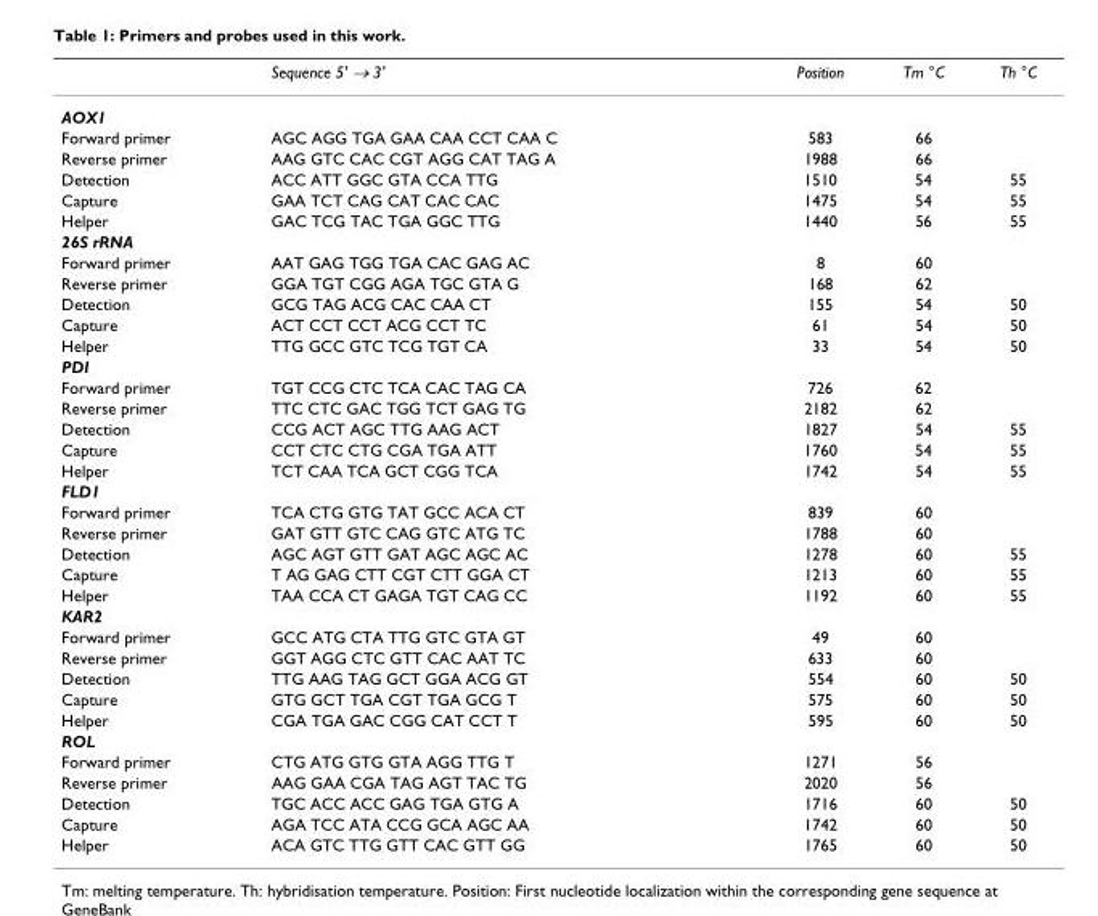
<table><thead><tr><td></td><td>Sequence 5&#x27; → 3&#x27;</td><td>Position</td><td>Tm °C</td><td>Th °C</td></tr></thead><tbody><tr><td colspan="5">AOX1</td></tr><tr><td>Forward primer</td><td>AGC AGG TGA GAA CAA CCT CAA C</td><td>583</td><td>66</td><td></td></tr><tr><td>Reverse primer</td><td>AAG GTC CAC CGT AGG CAT TAG A</td><td>1988</td><td>66</td><td></td></tr><tr><td>Detection</td><td>ACC ATT GGC GTA CCA TTG</td><td>1510</td><td>54</td><td>55</td></tr><tr><td>Capture</td><td>GAA TCT CAG CAT CAC CAC</td><td>1475</td><td>54</td><td>55</td></tr><tr><td>Helper</td><td>GAC TCG TAC TGA GGC TTG</td><td>1440</td><td>56</td><td>55</td></tr><tr><td colspan="5">26S rRNA</td></tr><tr><td>Forward primer</td><td>AAT GAG TGG TGA CAC GAG AC</td><td>8</td><td>60</td><td></td></tr><tr><td>Reverse primer</td><td>GGA TGT CGG AGA TGC GTA G</td><td>168</td><td>62</td><td></td></tr><tr><td>Detection</td><td>GCG TAG ACG CAC CAA CT</td><td>155</td><td>54</td><td>50</td></tr><tr><td>Capture</td><td>ACT CCT CCT ACG CCT TC</td><td>61</td><td>54</td><td>50</td></tr><tr><td>Helper</td><td>TTG GCC GTC TCG TGT CA</td><td>33</td><td>54</td><td>50</td></tr><tr><td colspan="5">PDI</td></tr><tr><td>Forward primer</td><td>TGT CCG CTC TCA CAC TAG CA</td><td>726</td><td>62</td><td></td></tr><tr><td>Reverse primer</td><td>TTC CTC GAC TGG TCT GAG TG</td><td>2182</td><td>62</td><td></td></tr><tr><td>Detection</td><td>CCG ACT AGC TTG AAG ACT</td><td>1827</td><td>54</td><td>55</td></tr><tr><td>Capture</td><td>CCT CTC CTG CGA TGA ATT</td><td>1760</td><td>54</td><td>55</td></tr><tr><td>Helper</td><td>TCT CAA TCA GCT CGG TCA</td><td>1742</td><td>54</td><td>55</td></tr><tr><td colspan="5">FLD1</td></tr><tr><td>Forward primer</td><td>TCA CTG GTG TAT GCC ACA CT</td><td>839</td><td>60</td><td></td></tr><tr><td>Reverse primer</td><td>GAT GTT GTC CAG GTC ATG TC</td><td>1788</td><td>60</td><td></td></tr><tr><td>Detection</td><td>AGC AGT GTT GAT AGC AGC AC</td><td>1278</td><td>60</td><td>55</td></tr><tr><td>Capture</td><td>T AG GAG CTT CGT CTT GGA CT</td><td>1213</td><td>60</td><td>55</td></tr><tr><td>Helper</td><td>TAA CCA CT GAGA TGT CAG CC</td><td>1192</td><td>60</td><td>55</td></tr><tr><td colspan="5">KAR2</td></tr><tr><td>Forward primer</td><td>GCC ATG CTA TTG GTC GTA GT</td><td>49</td><td>60</td><td></td></tr><tr><td>Reverse primer</td><td>GGT AGG CTC GTT CAC AAT TC</td><td>633</td><td>60</td><td></td></tr><tr><td>Detection</td><td>TTG AAG TAG GCT GGA ACG GT</td><td>554</td><td>60</td><td>50</td></tr><tr><td>Capture</td><td>GTG GCT TGA CGT TGA GCG T</td><td>575</td><td>60</td><td>50</td></tr><tr><td>Helper</td><td>CGA TGA GAC CGG CAT CCT T</td><td>595</td><td>60</td><td>50</td></tr><tr><td colspan="5">ROL</td></tr><tr><td>Forward primer</td><td>CTG ATG GTG GTA AGG TTG T</td><td>1271</td><td>56</td><td></td></tr><tr><td>Reverse primer</td><td>AAG GAA CGA TAG AGT TAC TG</td><td>2020</td><td>56</td><td></td></tr><tr><td>Detection</td><td>TGC ACC ACC GAG TGA GTG A</td><td>1716</td><td>60</td><td>50</td></tr><tr><td>Capture</td><td>AGA TCC ATA CCG GCA AGC AA</td><td>1742</td><td>60</td><td>50</td></tr><tr><td>Helper</td><td>ACA GTC TTG GTT CAC GTT GG</td><td>1765</td><td>60</td><td>50</td></tr></tbody></table>